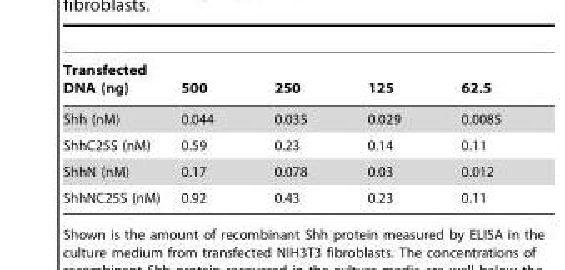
<table><thead><tr><td>Transfected DNA (ng)</td><td>500</td><td>250</td><td>125</td><td>62.5</td></tr></thead><tbody><tr><td>Shh (nM)</td><td>0.044</td><td>0.035</td><td>0.029</td><td>0.0085</td></tr><tr><td>ShhC25S (nM)</td><td>0.59</td><td>0.23</td><td>0.14</td><td>0.11</td></tr><tr><td>ShhN (nM)</td><td>0.17</td><td>0.078</td><td>0.03</td><td>0.012</td></tr><tr><td>ShhNC25S (nM)</td><td>0.92</td><td>0.43</td><td>0.23</td><td>0.11</td></tr></tbody></table>